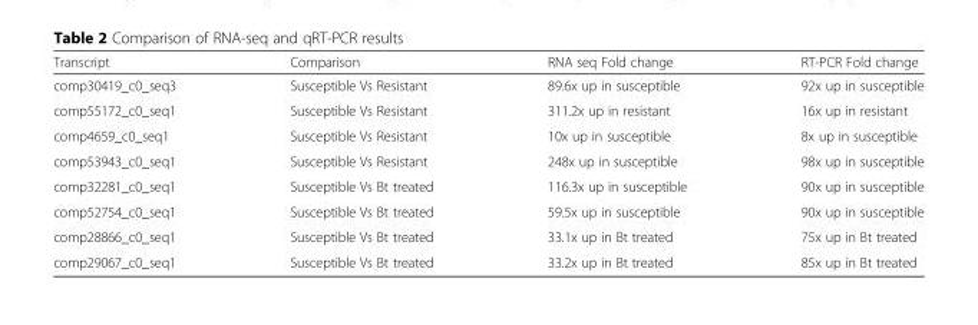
<table><thead><tr><td>Transcript</td><td>Comparison</td><td>RNA seq Fold change</td><td>RT-PCR Fold change</td></tr></thead><tbody><tr><td>comp30419_c0_seq3</td><td>Susceptible Vs Resistant</td><td>89.6x up in susceptible</td><td>92x up in susceptible</td></tr><tr><td>comp55172_c0_seq1</td><td>Susceptible Vs Resistant</td><td>311.2x up in resistant</td><td>16x up in resistant</td></tr><tr><td>comp4659_c0_seq1</td><td>Susceptible Vs Resistant</td><td>10x up in susceptible</td><td>8x up in susceptible</td></tr><tr><td>comp53943_c0_seq1</td><td>Susceptible Vs Resistant</td><td>248x up in susceptible</td><td>98x up in susceptible</td></tr><tr><td>comp32281_c0_seq1</td><td>Susceptible Vs Bt treated</td><td>116.3x up in susceptible</td><td>90x up in susceptible</td></tr><tr><td>comp52754_c0_seq1</td><td>Susceptible Vs Bt treated</td><td>59.5x up in susceptible</td><td>90x up in susceptible</td></tr><tr><td>comp28866_c0_seq1</td><td>Susceptible Vs Bt treated</td><td>33.1x up in Bt treated</td><td>75x up in Bt treated</td></tr><tr><td>comp29067_c0_seq1</td><td>Susceptible Vs Bt treated</td><td>33.2x up in Bt treated</td><td>85x up in Bt treated</td></tr></tbody></table>